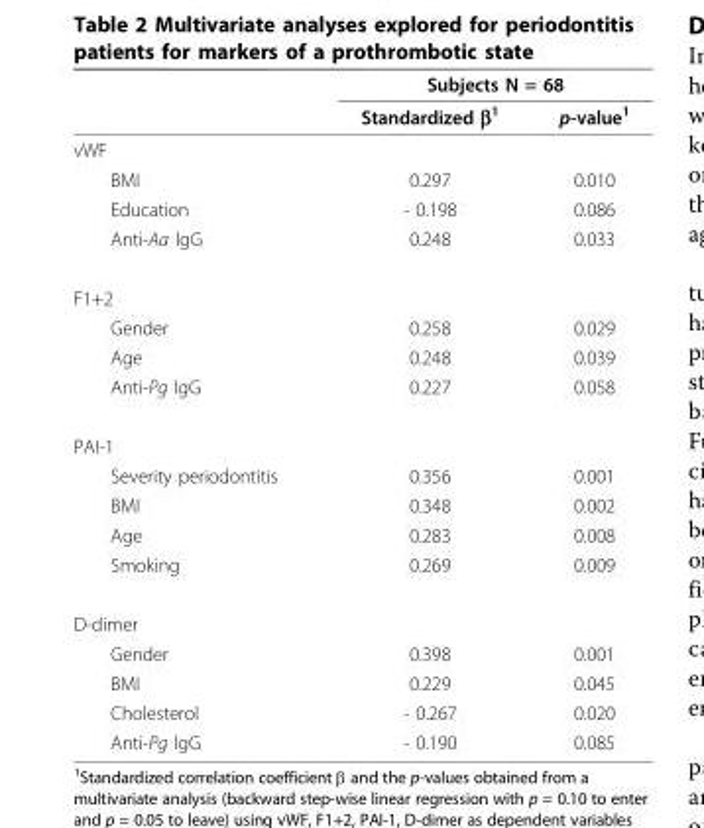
<table><thead><tr><td rowspan="2"></td><td colspan="2">Subjects N = 68</td></tr><tr><td>Standardized β<sup>1</sup></td><td>p-value<sup>1</sup></td></tr></thead><tbody><tr><td colspan="3">vWF</td></tr><tr><td>BMI</td><td>0.297</td><td>0.010</td></tr><tr><td>Education</td><td>- 0.198</td><td>0.086</td></tr><tr><td>Anti-Aa IgG</td><td>0.248</td><td>0.033</td></tr><tr><td colspan="3">F1+2</td></tr><tr><td>Gender</td><td>0.258</td><td>0.029</td></tr><tr><td>Age</td><td>0.248</td><td>0.039</td></tr><tr><td>Anti-Pg IgG</td><td>0.227</td><td>0.058</td></tr><tr><td colspan="3">PAI-1</td></tr><tr><td>Severity periodontitis</td><td>0.356</td><td>0.001</td></tr><tr><td>BMI</td><td>0.348</td><td>0.002</td></tr><tr><td>Age</td><td>0.283</td><td>0.008</td></tr><tr><td>Smoking</td><td>0.269</td><td>0.009</td></tr><tr><td colspan="3">D-dimer</td></tr><tr><td>Gender</td><td>0.398</td><td>0.001</td></tr><tr><td>BMI</td><td>0.229</td><td>0.045</td></tr><tr><td>Cholesterol</td><td>- 0.267</td><td>0.020</td></tr><tr><td>Anti-Pg IgG</td><td>- 0.190</td><td>0.085</td></tr></tbody></table>